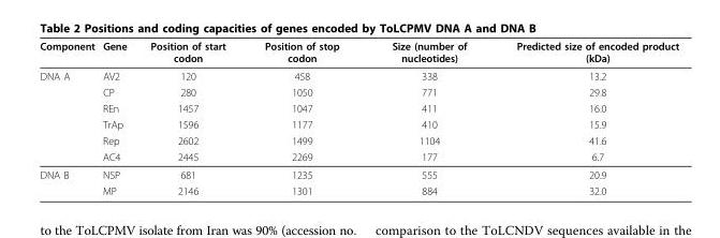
<table><thead><tr><td>Component</td><td>Gene</td><td>Position of start codon</td><td>Position of stop codon</td><td>Size (number of nucleotides)</td><td>Predicted size of encoded product (kDa)</td></tr></thead><tbody><tr><td rowspan="6">DNA A</td><td>AV2</td><td>120</td><td>458</td><td>338</td><td>13.2</td></tr><tr><td>CP</td><td>280</td><td>1050</td><td>771</td><td>29.8</td></tr><tr><td>REn</td><td>1457</td><td>1047</td><td>411</td><td>16.0</td></tr><tr><td>TrAp</td><td>1596</td><td>1177</td><td>410</td><td>15.9</td></tr><tr><td>Rep</td><td>2602</td><td>1499</td><td>1104</td><td>41.6</td></tr><tr><td>AC4</td><td>2445</td><td>2269</td><td>177</td><td>6.7</td></tr><tr><td rowspan="2">DNA B</td><td>NSP</td><td>681</td><td>1235</td><td>555</td><td>20.9</td></tr><tr><td>MP</td><td>2146</td><td>1301</td><td>884</td><td>32.0</td></tr></tbody></table>